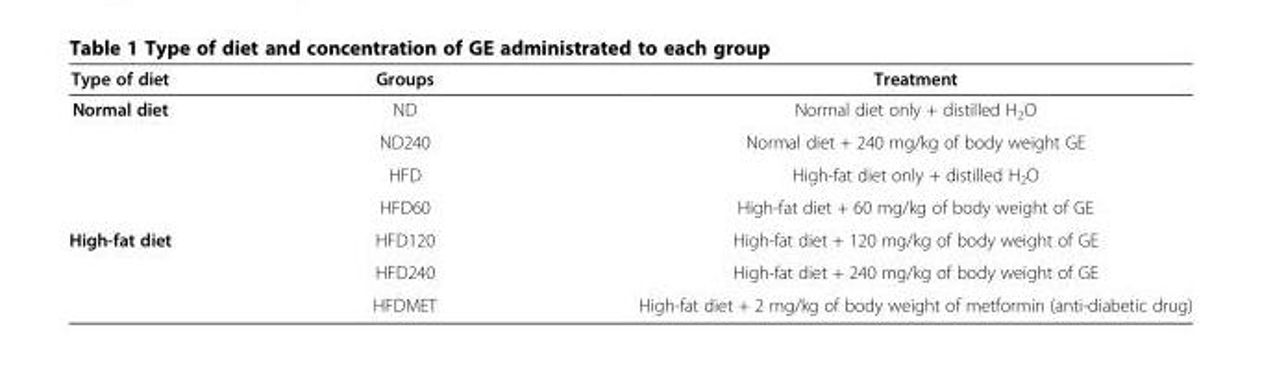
<table><thead><tr><td>Type of diet</td><td>Groups</td><td>Treatment</td></tr></thead><tbody><tr><td rowspan="4">Normal diet</td><td>ND</td><td>Normal diet only + distilled H<sub>2</sub>O</td></tr><tr><td>ND240</td><td>Normal diet + 240 mg/kg of body weight GE</td></tr><tr><td>HFD</td><td>High-fat diet only + distilled H<sub>2</sub>O</td></tr><tr><td>HFD60</td><td>High-fat diet + 60 mg/kg of body weight of GE</td></tr><tr><td rowspan="3">High-fat diet</td><td>HFD120</td><td>High-fat diet + 120 mg/kg of body weight of GE</td></tr><tr><td>HFD240</td><td>High-fat diet + 240 mg/kg of body weight of GE</td></tr><tr><td>HFDMET</td><td>High-fat diet + 2 mg/kg of body weight of metformin (anti-diabetic drug)</td></tr></tbody></table>